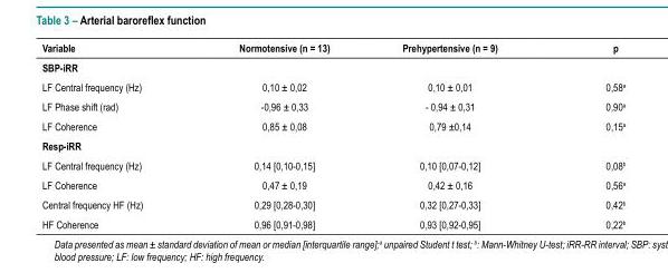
<table><thead><tr><td>Variable</td><td>Normotensive (n = 13)</td><td>Prehypertensive (n = 9)</td><td>p</td></tr></thead><tbody><tr><td colspan="4">SBP-iRR</td></tr><tr><td>LF Central frequency (Hz)</td><td>0,10 ± 0,02</td><td>0,10 ± 0,01</td><td>0,58<sup>a</sup></td></tr><tr><td>LF Phase shift (rad)</td><td>-0,96 ± 0,33</td><td>- 0,94 ± 0,31</td><td>0,90<sup>a</sup></td></tr><tr><td>LF Coherence</td><td>0,85 ± 0,08</td><td>0,79 ±0,14</td><td>0,15<sup>a</sup></td></tr><tr><td colspan="4">Resp-iRR</td></tr><tr><td>LF Central frequency (Hz)</td><td>0,14 [0,10-0,15]</td><td>0,10 [0,07-0,12]</td><td>0,08<sup>b</sup></td></tr><tr><td>LF Coherence</td><td>0,47 ± 0,19</td><td>0,42 ± 0,16</td><td>0,56<sup>a</sup></td></tr><tr><td>Central frequency HF (Hz)</td><td>0,29 [0,28-0,30]</td><td>0,32 [0,27-0,33]</td><td>0,42<sup>b</sup></td></tr><tr><td>HF Coherence</td><td>0,96 [0,91-0,98]</td><td>0,93 [0,92-0,95]</td><td>0,22<sup>b</sup></td></tr></tbody></table>